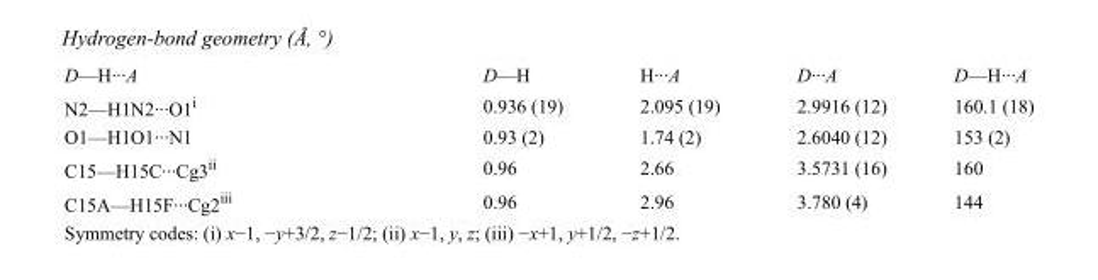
<table><tbody><tr><td>D—H···A</td><td>D—H</td><td>H···A</td><td>D···A</td><td>D—H···A</td></tr><tr><td>N2—H1N2···O1<sup>i</sup></td><td>0.936 (19)</td><td>2.095 (19)</td><td>2.9916 (12)</td><td>160.1 (18)</td></tr><tr><td>O1—H1O1···N1</td><td>0.93 (2)</td><td>1.74 (2)</td><td>2.6040 (12)</td><td>153 (2)</td></tr><tr><td>C15—H15C···Cg3<sup>ii</sup></td><td>0.96</td><td>2.66</td><td>3.5731 (16)</td><td>160</td></tr><tr><td>C15A—H15F···Cg2<sup>iii</sup></td><td>0.96</td><td>2.96</td><td>3.780 (4)</td><td>144</td></tr></tbody></table>